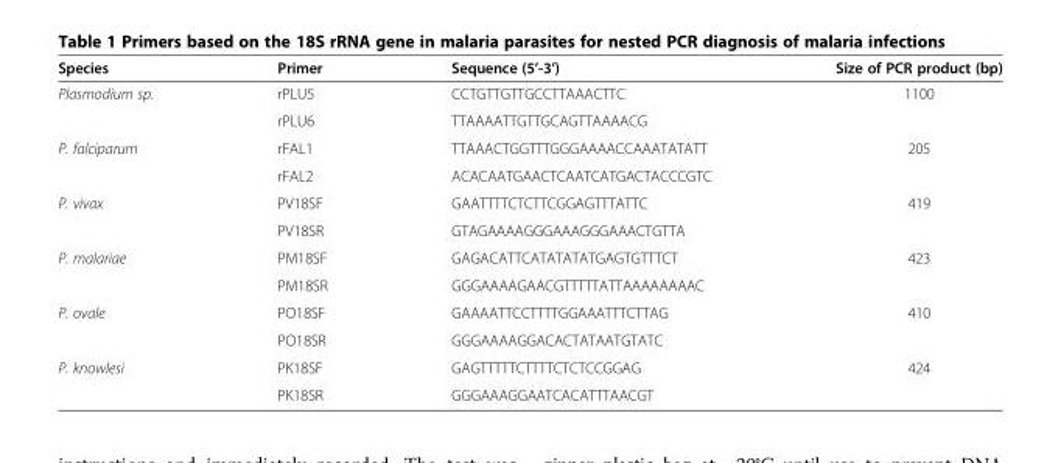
<table><thead><tr><td>Species</td><td>Primer</td><td>Sequence (5’-3’)</td><td>Size of PCR product (bp)</td></tr></thead><tbody><tr><td rowspan="2">Plasmodium sp.</td><td>rPLU5</td><td>CCTGTTGTTGCCTTAAACTTC</td><td>1100</td></tr><tr><td>rPLU6</td><td>TTAAAATTGTTGCAGTTAAAACG</td><td></td></tr><tr><td rowspan="2">P. falciparum</td><td>rFAL1</td><td>TTAAACTGGTTTGGGAAAACCAAATATATT</td><td>205</td></tr><tr><td>rFAL2</td><td>ACACAATGAACTCAATCATGACTACCCGTC</td><td></td></tr><tr><td rowspan="2">P. vivax</td><td>PV18SF</td><td>GAATTTTCTCTTCGGAGTTTATTC</td><td>419</td></tr><tr><td>PV18SR</td><td>GTAGAAAAGGGAAAGGGAAACTGTTA</td><td></td></tr><tr><td rowspan="2">P. malariae</td><td>PM18SF</td><td>GAGACATTCATATATATGAGTGTTTCT</td><td>423</td></tr><tr><td>PM18SR</td><td>GGGAAAAGAACGTTTTTATTAAAAAAAAC</td><td></td></tr><tr><td rowspan="2">P. ovale</td><td>PO18SF</td><td>GAAAATTCCTTTTGGAAATTTCTTAG</td><td>410</td></tr><tr><td>PO18SR</td><td>GGGAAAAGGACACTATAATGTATC</td><td></td></tr><tr><td rowspan="2">P. knowlesi</td><td>PK18SF</td><td>GAGTTTTTCTTTTCTCTCCGGAG</td><td>424</td></tr><tr><td>PK18SR</td><td>GGGAAAGGAATCACATTTAACGT</td><td></td></tr></tbody></table>